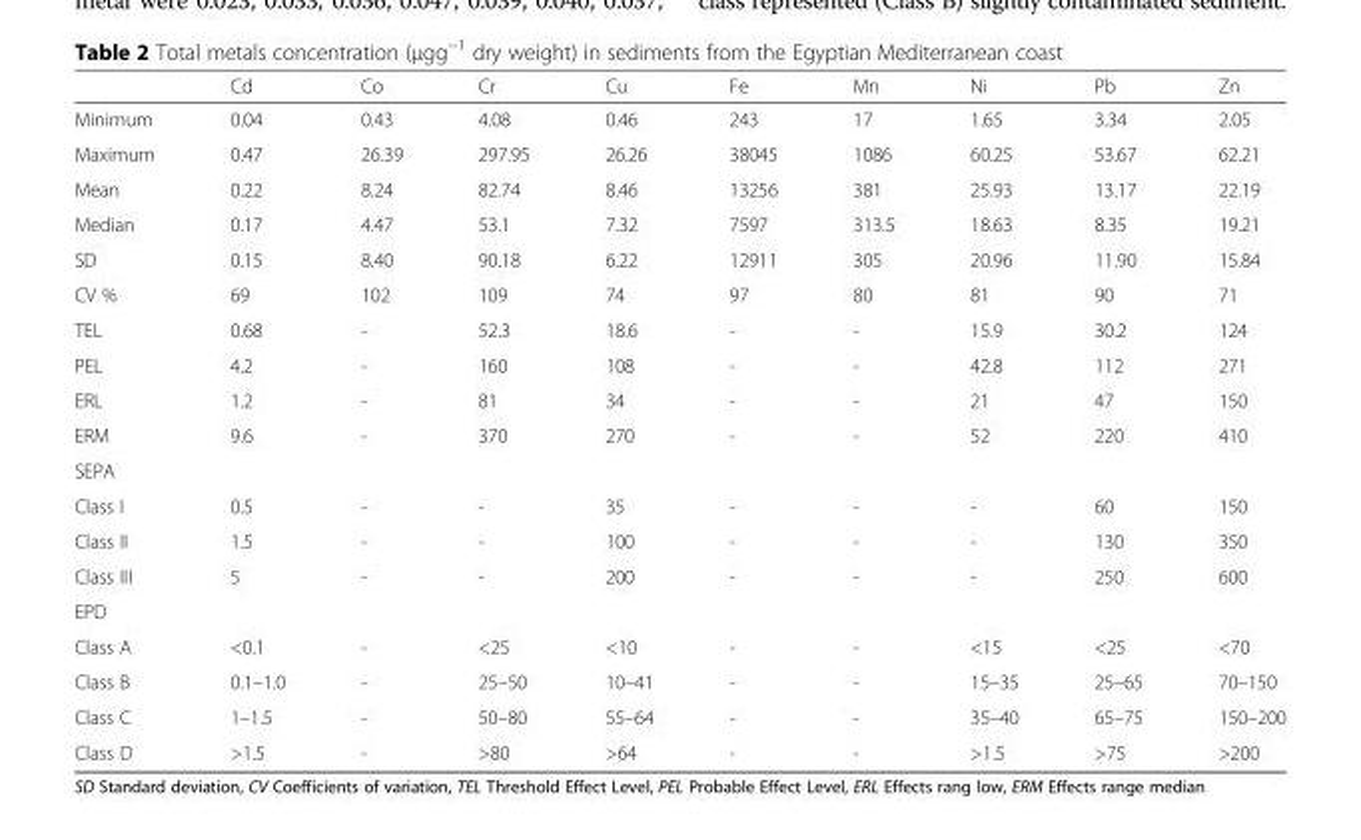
<table><thead><tr><td></td><td>Cd</td><td>Co</td><td>Cr</td><td>Cu</td><td>Fe</td><td>Mn</td><td>Ni</td><td>Pb</td><td>Zn</td></tr></thead><tbody><tr><td>Minimum</td><td>0.04</td><td>0.43</td><td>4.08</td><td>0.46</td><td>243</td><td>17</td><td>1.65</td><td>3.34</td><td>2.05</td></tr><tr><td>Maximum</td><td>0.47</td><td>26.39</td><td>297.95</td><td>26.26</td><td>38045</td><td>1086</td><td>60.25</td><td>53.67</td><td>62.21</td></tr><tr><td>Mean</td><td>0.22</td><td>8.24</td><td>82.74</td><td>8.46</td><td>13256</td><td>381</td><td>25.93</td><td>13.17</td><td>22.19</td></tr><tr><td>Median</td><td>0.17</td><td>4.47</td><td>53.1</td><td>7.32</td><td>7597</td><td>313.5</td><td>18.63</td><td>8.35</td><td>19.21</td></tr><tr><td>SD</td><td>0.15</td><td>8.40</td><td>90.18</td><td>6.22</td><td>12911</td><td>305</td><td>20.96</td><td>11.90</td><td>15.84</td></tr><tr><td>CV %</td><td>69</td><td>102</td><td>109</td><td>74</td><td>97</td><td>80</td><td>81</td><td>90</td><td>71</td></tr><tr><td>TEL</td><td>0.68</td><td>-</td><td>52.3</td><td>18.6</td><td>-</td><td>-</td><td>15.9</td><td>30.2</td><td>124</td></tr><tr><td>PEL</td><td>4.2</td><td>-</td><td>160</td><td>108</td><td>-</td><td>-</td><td>42.8</td><td>112</td><td>271</td></tr><tr><td>ERL</td><td>1.2</td><td>-</td><td>81</td><td>34</td><td>-</td><td>-</td><td>21</td><td>47</td><td>150</td></tr><tr><td>ERM</td><td>9.6</td><td>-</td><td>370</td><td>270</td><td>-</td><td>-</td><td>52</td><td>220</td><td>410</td></tr><tr><td colspan="10">SEPA</td></tr><tr><td>Class I</td><td>0.5</td><td>-</td><td>-</td><td>35</td><td>-</td><td>-</td><td>-</td><td>60</td><td>150</td></tr><tr><td>Class II</td><td>1.5</td><td>-</td><td>-</td><td>100</td><td>-</td><td>-</td><td>-</td><td>130</td><td>350</td></tr><tr><td>Class III</td><td>5</td><td>-</td><td>-</td><td>200</td><td>-</td><td>-</td><td>-</td><td>250</td><td>600</td></tr><tr><td colspan="10">EPD</td></tr><tr><td>Class A</td><td>&lt;0.1</td><td>-</td><td>&lt;25</td><td>&lt;10</td><td>-</td><td>-</td><td>&lt;15</td><td>&lt;25</td><td>&lt;70</td></tr><tr><td>Class B</td><td>0.1–1.0</td><td>-</td><td>25–50</td><td>10–41</td><td>-</td><td>-</td><td>15–35</td><td>25–65</td><td>70–150</td></tr><tr><td>Class C</td><td>1–1.5</td><td>-</td><td>50–80</td><td>55–64</td><td>-</td><td>-</td><td>35–40</td><td>65–75</td><td>150–200</td></tr><tr><td>Class D</td><td>&gt;1.5</td><td>-</td><td>&gt;80</td><td>&gt;64</td><td>-</td><td>-</td><td>&gt;1.5</td><td>&gt;75</td><td>&gt;200</td></tr></tbody></table>